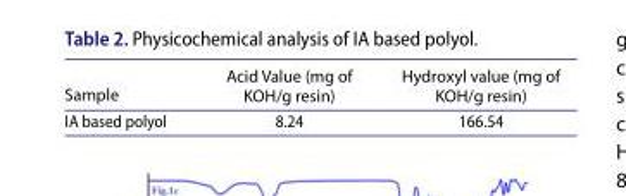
<table><thead><tr><td>Sample</td><td>Acid Value (mg of KOH/g resin)</td><td>Hydroxyl value (mg of KOH/g resin)</td></tr></thead><tbody><tr><td>iA based polyol</td><td>8.24</td><td>166.54</td></tr></tbody></table>